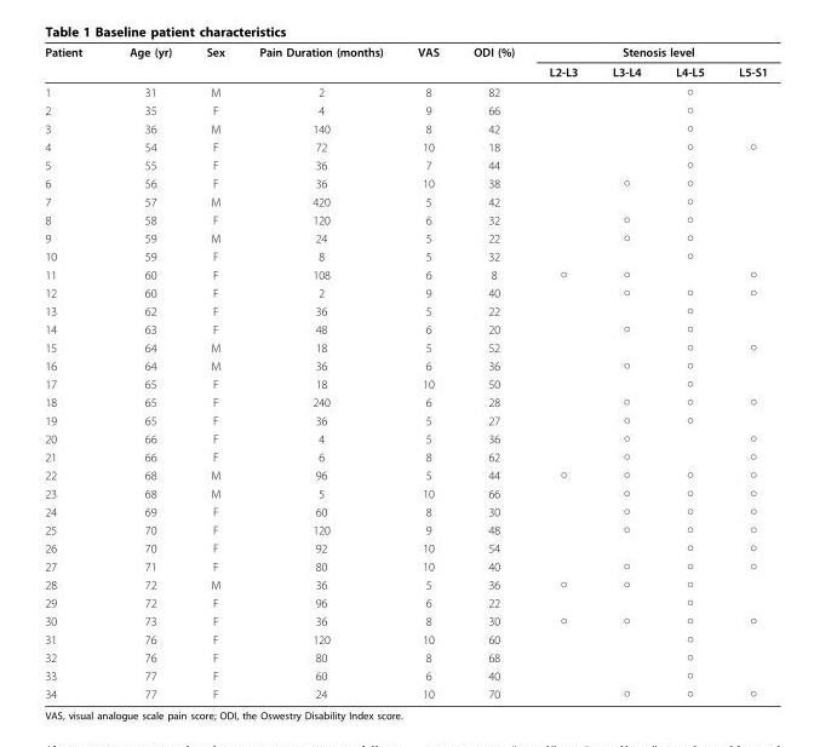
<table><thead><tr><td rowspan="2">Patient</td><td rowspan="2">Age (yr)</td><td rowspan="2">Sex</td><td rowspan="2">Pain Duration (months)</td><td rowspan="2">VAS</td><td rowspan="2">ODI (%)</td><td colspan="4">Stenosis level</td></tr><tr><td>L2-L3</td><td>L3-L4</td><td>L4-L5</td><td>L5-S1</td></tr></thead><tbody><tr><td>1</td><td>31</td><td>M</td><td>2</td><td>8</td><td>82</td><td></td><td></td><td>○</td><td></td></tr><tr><td>2</td><td>35</td><td>F</td><td>4</td><td>9</td><td>66</td><td></td><td></td><td>○</td><td></td></tr><tr><td>3</td><td>36</td><td>M</td><td>140</td><td>8</td><td>42</td><td></td><td></td><td>○</td><td></td></tr><tr><td>4</td><td>54</td><td>F</td><td>72</td><td>10</td><td>18</td><td></td><td></td><td>○</td><td>○</td></tr><tr><td>5</td><td>55</td><td>F</td><td>36</td><td>7</td><td>44</td><td></td><td></td><td>○</td><td></td></tr><tr><td>6</td><td>56</td><td>F</td><td>36</td><td>10</td><td>38</td><td></td><td>○</td><td>○</td><td></td></tr><tr><td>7</td><td>57</td><td>M</td><td>420</td><td>5</td><td>42</td><td></td><td></td><td>○</td><td></td></tr><tr><td>8</td><td>58</td><td>F</td><td>120</td><td>6</td><td>32</td><td></td><td>○</td><td>○</td><td></td></tr><tr><td>9</td><td>59</td><td>M</td><td>24</td><td>5</td><td>22</td><td></td><td>○</td><td>○</td><td></td></tr><tr><td>10</td><td>59</td><td>F</td><td>8</td><td>5</td><td>32</td><td></td><td></td><td>○</td><td></td></tr><tr><td>11</td><td>60</td><td>F</td><td>108</td><td>6</td><td>8</td><td>○</td><td>○</td><td></td><td>○</td></tr><tr><td>12</td><td>60</td><td>F</td><td>2</td><td>9</td><td>40</td><td></td><td>○</td><td>○</td><td>○</td></tr><tr><td>13</td><td>62</td><td>F</td><td>36</td><td>5</td><td>22</td><td></td><td></td><td>○</td><td></td></tr><tr><td>14</td><td>63</td><td>F</td><td>48</td><td>6</td><td>20</td><td></td><td>○</td><td>○</td><td></td></tr><tr><td>15</td><td>64</td><td>M</td><td>18</td><td>5</td><td>52</td><td></td><td></td><td>○</td><td>○</td></tr><tr><td>16</td><td>64</td><td>M</td><td>36</td><td>6</td><td>36</td><td></td><td>○</td><td>○</td><td></td></tr><tr><td>17</td><td>65</td><td>F</td><td>18</td><td>10</td><td>50</td><td></td><td></td><td>○</td><td></td></tr><tr><td>18</td><td>65</td><td>F</td><td>240</td><td>6</td><td>28</td><td></td><td>○</td><td>○</td><td>○</td></tr><tr><td>19</td><td>65</td><td>F</td><td>36</td><td>5</td><td>27</td><td></td><td>○</td><td>○</td><td></td></tr><tr><td>20</td><td>66</td><td>F</td><td>4</td><td>5</td><td>36</td><td></td><td>○</td><td></td><td>○</td></tr><tr><td>21</td><td>66</td><td>F</td><td>6</td><td>8</td><td>62</td><td></td><td>○</td><td></td><td>○</td></tr><tr><td>22</td><td>68</td><td>M</td><td>96</td><td>5</td><td>44</td><td>○</td><td>○</td><td>○</td><td>○</td></tr><tr><td>23</td><td>68</td><td>M</td><td>5</td><td>10</td><td>66</td><td></td><td>○</td><td>○</td><td>○</td></tr><tr><td>24</td><td>69</td><td>F</td><td>60</td><td>8</td><td>30</td><td></td><td>○</td><td>○</td><td>○</td></tr><tr><td>25</td><td>70</td><td>F</td><td>120</td><td>9</td><td>48</td><td></td><td>○</td><td>○</td><td>○</td></tr><tr><td>26</td><td>70</td><td>F</td><td>92</td><td>10</td><td>54</td><td></td><td></td><td>○</td><td>○</td></tr><tr><td>27</td><td>71</td><td>F</td><td>80</td><td>10</td><td>40</td><td></td><td>○</td><td>○</td><td>○</td></tr><tr><td>28</td><td>72</td><td>M</td><td>36</td><td>5</td><td>36</td><td>○</td><td>○</td><td>○</td><td></td></tr><tr><td>29</td><td>72</td><td>F</td><td>96</td><td>6</td><td>22</td><td></td><td></td><td>○</td><td></td></tr><tr><td>30</td><td>73</td><td>F</td><td>36</td><td>8</td><td>30</td><td>○</td><td>○</td><td>○</td><td>○</td></tr><tr><td>31</td><td>76</td><td>F</td><td>120</td><td>10</td><td>60</td><td></td><td></td><td>○</td><td></td></tr><tr><td>32</td><td>76</td><td>F</td><td>80</td><td>8</td><td>68</td><td></td><td></td><td>○</td><td></td></tr><tr><td>33</td><td>77</td><td>F</td><td>60</td><td>6</td><td>40</td><td></td><td></td><td>○</td><td></td></tr><tr><td>34</td><td>77</td><td>F</td><td>24</td><td>10</td><td>70</td><td></td><td>○</td><td>○</td><td>○</td></tr></tbody></table>